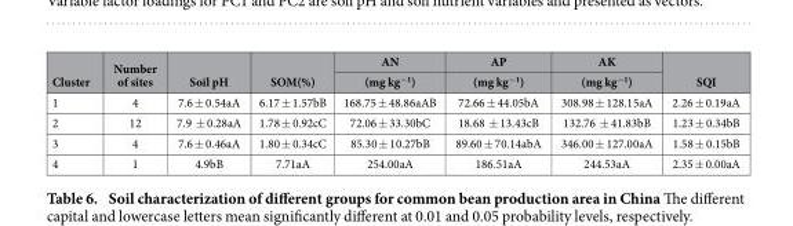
<table><thead><tr><td rowspan="2">Cluster</td><td rowspan="2">Number of sites</td><td rowspan="2">Soil pH</td><td rowspan="2">SOM(%)</td><td rowspan="2">AN (mg kg<sup>−1</sup>)</td><td rowspan="2">AP (mg kg<sup>−1</sup>)</td><td rowspan="2">AK (mg kg<sup>−1</sup>)</td><td rowspan="2">SQI</td></tr><tr></tr></thead><tbody><tr><td>1</td><td>4</td><td>7.6 ± 0.54aA</td><td>6.17 ± 1.57bB</td><td>168.75 ± 48.86aAB</td><td>72.66 ± 44.05bA</td><td>308.98 ± 128.15aA</td><td>2.26 ± 0.19aA</td></tr><tr><td>2</td><td>12</td><td>7.9 ± 0.28aA</td><td>1.78 ± 0.92cC</td><td>72.06 ± 33.30bC</td><td>18.68 ± 13.43cB</td><td>132.76 ± 41.83bB</td><td>1.23 ± 0.34bB</td></tr><tr><td>3</td><td>4</td><td>7.6 ± 0.46aA</td><td>1.80 ± 0.34cC</td><td>85.30 ± 10.27bB</td><td>89.60 ± 70.14abA</td><td>346.00 ± 127.00aA</td><td>1.58 ± 0.15bB</td></tr><tr><td>4</td><td>1</td><td>4.9bB</td><td>7.71aA</td><td>254.00aA</td><td>186.51aA</td><td>244.53aA</td><td>2.35 ± 0.00aA</td></tr></tbody></table>